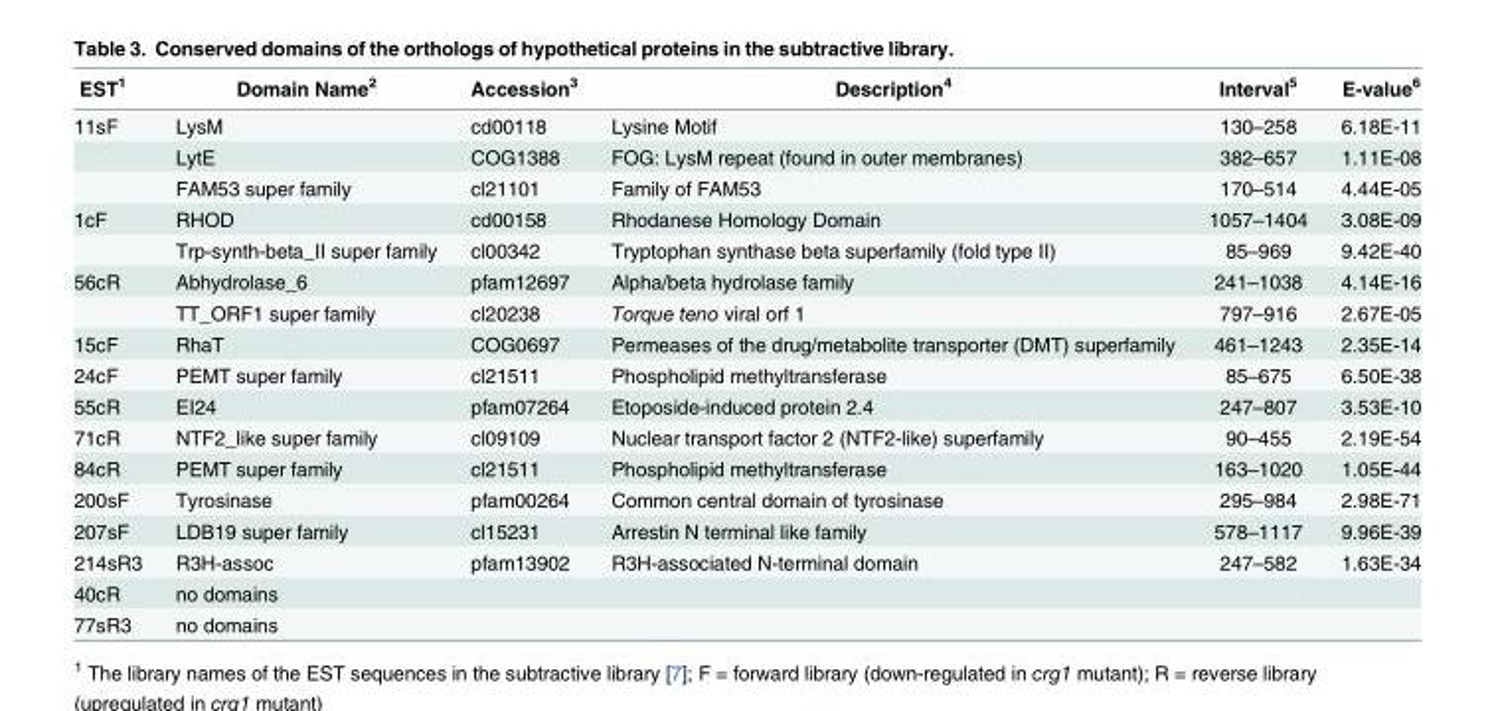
<table><thead><tr><td>EST<sup>1</sup></td><td>Domain Name<sup>2</sup></td><td>Accession<sup>3</sup></td><td>Description<sup>4</sup></td><td>Interval<sup>5</sup></td><td>E-value<sup>6</sup></td></tr></thead><tbody><tr><td rowspan="3">11sF</td><td>LysM</td><td>cd00118</td><td>Lysine Motif</td><td>130–258</td><td>6.18E-11</td></tr><tr><td>LytE</td><td>COG1388</td><td>FOG: LysM repeat (found in outer membranes)</td><td>382–657</td><td>1.11E-08</td></tr><tr><td>FAM53 super family</td><td>cl21101</td><td>Family of FAM53</td><td>170–514</td><td>4.44E-05</td></tr><tr><td rowspan="2">1cF</td><td>RHOD</td><td>cd00158</td><td>Rhodanese Homology Domain</td><td>1057–1404</td><td>3.08E-09</td></tr><tr><td>Trp-synth-beta_II super family</td><td>cl00342</td><td>Tryptophan synthase beta superfamily (fold type II)</td><td>85–969</td><td>9.42E-40</td></tr><tr><td rowspan="2">56cR</td><td>Abhydrolase_6</td><td>pfam12697</td><td>Alpha/beta hydrolase family</td><td>241–1038</td><td>4.14E-16</td></tr><tr><td>TT_ORF1 super family</td><td>cl20238</td><td>Torque teno viral orf 1</td><td>797–916</td><td>2.67E-05</td></tr><tr><td>15cF</td><td>RhaT</td><td>COG0697</td><td>Permeases of the drug/metabolite transporter (DMT) superfamily</td><td>461–1243</td><td>2.35E-14</td></tr><tr><td>24cF</td><td>PEMT super family</td><td>cl21511</td><td>Phospholipid methyltransferase</td><td>85–675</td><td>6.50E-38</td></tr><tr><td>55cR</td><td>EI24</td><td>pfam07264</td><td>Etoposide-induced protein 2.4</td><td>247–807</td><td>3.53E-10</td></tr><tr><td>71cR</td><td>NTF2_like super family</td><td>cl09109</td><td>Nuclear transport factor 2 (NTF2-like) superfamily</td><td>90–455</td><td>2.19E-54</td></tr><tr><td>84cR</td><td>PEMT super family</td><td>cl21511</td><td>Phospholipid methyltransferase</td><td>163–1020</td><td>1.05E-44</td></tr><tr><td>200sF</td><td>Tyrosinase</td><td>pfam00264</td><td>Common central domain of tyrosinase</td><td>295–984</td><td>2.98E-71</td></tr><tr><td>207sF</td><td>LDB19 super family</td><td>cl15231</td><td>Arrestin N terminal like family</td><td>578–1117</td><td>9.96E-39</td></tr><tr><td>214sR3</td><td>R3H-assoc</td><td>pfam13902</td><td>R3H-associated N-terminal domain</td><td>247–582</td><td>1.63E-34</td></tr><tr><td>40cR</td><td>no domains</td><td></td><td></td><td></td><td></td></tr><tr><td>77sR3</td><td>no domains</td><td></td><td></td><td></td><td></td></tr></tbody></table>